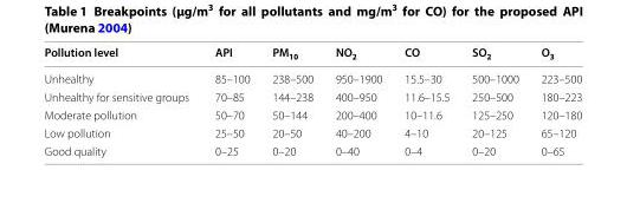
<table><thead><tr><td>Pollution level</td><td>API</td><td>PM<sub>10</sub></td><td>NO<sub>2</sub></td><td>CO</td><td>SO<sub>2</sub></td><td>O<sub>3</sub></td></tr></thead><tbody><tr><td>Unhealthy</td><td>85–100</td><td>238–500</td><td>950–1900</td><td>15.5–30</td><td>500–1000</td><td>223–500</td></tr><tr><td>Unhealthy for sensitive groups</td><td>70–85</td><td>144–238</td><td>400–950</td><td>11.6–15.5</td><td>250–500</td><td>180–223</td></tr><tr><td>Moderate pollution</td><td>50–70</td><td>50–144</td><td>200–400</td><td>10–11.6</td><td>125–250</td><td>120–180</td></tr><tr><td>Low pollution</td><td>25–50</td><td>20–50</td><td>40–200</td><td>4–10</td><td>20–125</td><td>65–120</td></tr><tr><td>Good quality</td><td>0–25</td><td>0–20</td><td>0–40</td><td>0–4</td><td>0–20</td><td>0–65</td></tr></tbody></table>